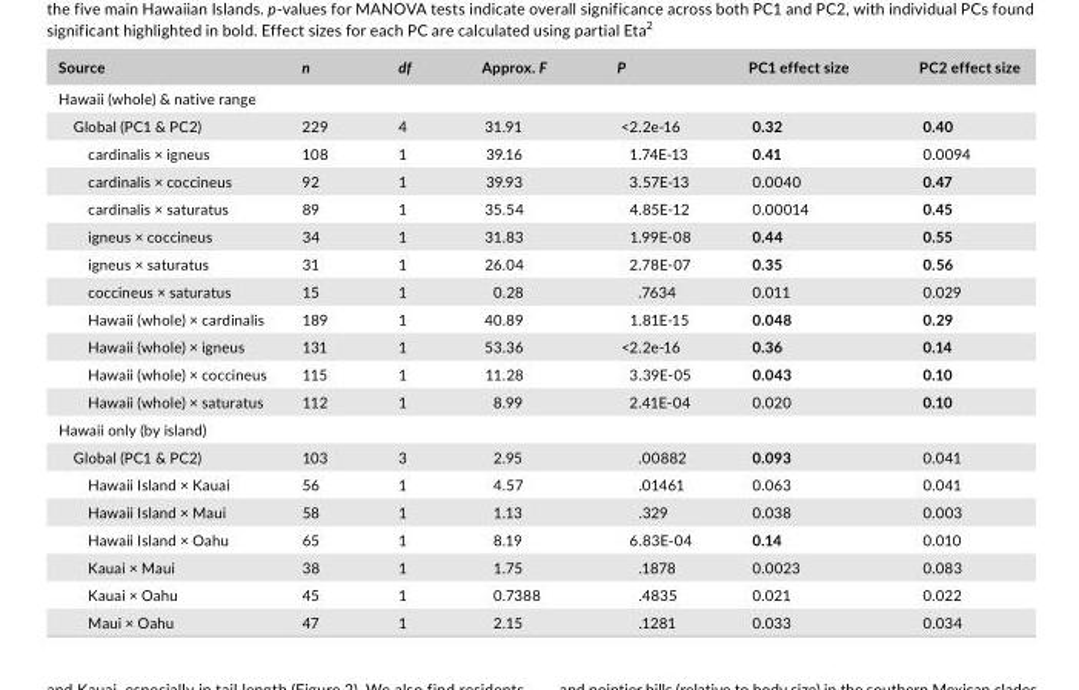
<table><thead><tr><td>Source</td><td>n</td><td>df</td><td>Approx. F</td><td>P</td><td>PC1 effect size</td><td>PC2 effect size</td></tr></thead><tbody><tr><td colspan="7">Hawaii (whole) &amp; native range</td></tr><tr><td>Global (PC1 &amp; PC2)</td><td>229</td><td>4</td><td>31.91</td><td>&lt;2.2e- 16</td><td>0.32</td><td>0.40</td></tr><tr><td>cardinalis × igneus</td><td>108</td><td>1</td><td>39.16</td><td>1.74E- 13</td><td>0.41</td><td>0.0094</td></tr><tr><td>cardinalis × coccineus</td><td>92</td><td>1</td><td>39.93</td><td>3.57E- 13</td><td>0.0040</td><td>0.47</td></tr><tr><td>cardinalis × saturatus</td><td>89</td><td>1</td><td>35.54</td><td>4.85E- 12</td><td>0.00014</td><td>0.45</td></tr><tr><td>igneus × coccineus</td><td>34</td><td>1</td><td>31.83</td><td>1.99E- 08</td><td>0.44</td><td>0.55</td></tr><tr><td>igneus × saturatus</td><td>31</td><td>1</td><td>26.04</td><td>2.78E- 07</td><td>0.35</td><td>0.56</td></tr><tr><td>coccineus × saturatus</td><td>15</td><td>1</td><td>0.28</td><td>.7634</td><td>0.011</td><td>0.029</td></tr><tr><td>Hawaii (whole) × cardinalis</td><td>189</td><td>1</td><td>40.89</td><td>1.81E- 15</td><td>0.048</td><td>0.29</td></tr><tr><td>Hawaii (whole) × igneus</td><td>131</td><td>1</td><td>53.36</td><td>&lt;2.2e- 16</td><td>0.36</td><td>0.14</td></tr><tr><td>Hawaii (whole) × coccineus</td><td>115</td><td>1</td><td>11.28</td><td>3.39E- 05</td><td>0.043</td><td>0.10</td></tr><tr><td>Hawaii (whole) × saturatus</td><td>112</td><td>1</td><td>8.99</td><td>2.41E- 04</td><td>0.020</td><td>0.10</td></tr><tr><td colspan="7">Hawaii only (by island)</td></tr><tr><td>Global (PC1 &amp; PC2)</td><td>103</td><td>3</td><td>2.95</td><td>.00882</td><td>0.093</td><td>0.041</td></tr><tr><td>Hawaii Island × Kauai</td><td>56</td><td>1</td><td>4.57</td><td>.01461</td><td>0.063</td><td>0.041</td></tr><tr><td>Hawaii Island × Maui</td><td>58</td><td>1</td><td>1.13</td><td>.329</td><td>0.038</td><td>0.003</td></tr><tr><td>Hawaii Island × Oahu</td><td>65</td><td>1</td><td>8.19</td><td>6.83E- 04</td><td>0.14</td><td>0.010</td></tr><tr><td>Kauai × Maui</td><td>38</td><td>1</td><td>1.75</td><td>.1878</td><td>0.0023</td><td>0.083</td></tr><tr><td>Kauai × Oahu</td><td>45</td><td>1</td><td>0.7388</td><td>.4835</td><td>0.021</td><td>0.022</td></tr><tr><td>Maui × Oahu</td><td>47</td><td>1</td><td>2.15</td><td>.1281</td><td>0.033</td><td>0.034</td></tr></tbody></table>